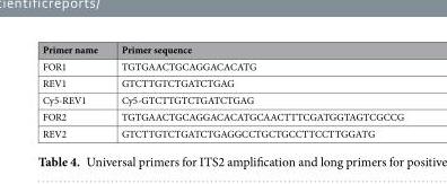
<table><thead><tr><td>Primer name</td><td>Primer sequence</td></tr></thead><tbody><tr><td>FOR1</td><td>TGTGAACTGCAGGACACATG</td></tr><tr><td>REV1</td><td>GTCTTGTCTGATCTGAG</td></tr><tr><td>Cy5-REV1</td><td>Cy5-GTCTTGTCTGATCTGAG</td></tr><tr><td>FOR2</td><td>TGTGAACTGCAGGACACATGCAACTTTCGATGGTAGTCGCCG</td></tr><tr><td>REV2</td><td>GTCTTGTCTGATCTGAGGCCTGCTGCCTTCCTTGGATG</td></tr></tbody></table>